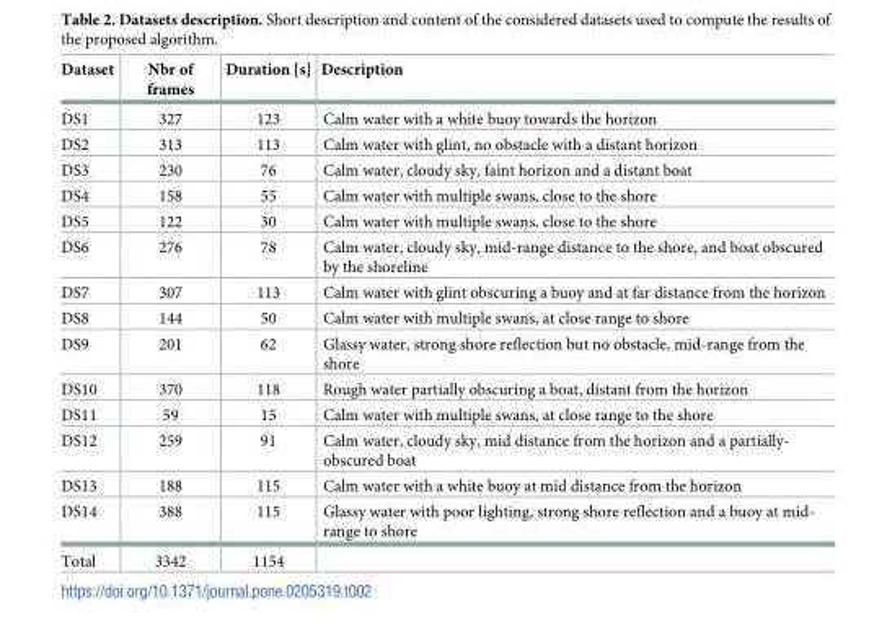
<table><thead><tr><td>Dataset</td><td>Nbr of frames</td><td>Duration [s]</td><td>Description</td></tr></thead><tbody><tr><td>DS1</td><td>327</td><td>123</td><td>Calm water with a white buoy towards the horizon</td></tr><tr><td>DS2</td><td>313</td><td>113</td><td>Calm water with glint, no obstacle with a distant horizon</td></tr><tr><td>DS3</td><td>230</td><td>76</td><td>Calm water, cloudy sky, faint horizon and a distant boat</td></tr><tr><td>DS4</td><td>158</td><td>55</td><td>Calm water with multiple swans, close to the shore</td></tr><tr><td>DS5</td><td>122</td><td>30</td><td>Calm water with multiple swans, close to the shore</td></tr><tr><td>DS6</td><td>276</td><td>78</td><td>Calm water, cloudy sky, mid-range distance to the shore, and boat obscured by the shoreline</td></tr><tr><td>DS7</td><td>307</td><td>113</td><td>Calm water with glint obscuring a buoy and at far distance from the horizon</td></tr><tr><td>DS8</td><td>144</td><td>50</td><td>Calm water with multiple swans, at close range to shore</td></tr><tr><td>DS9</td><td>201</td><td>62</td><td>Glassy water, strong shore reflection but no obstacle, mid-range from the shore</td></tr><tr><td>DS10</td><td>370</td><td>118</td><td>Rough water partially obscuring a boat, distant from the horizon</td></tr><tr><td>DS11</td><td>59</td><td>15</td><td>Calm water with multiple swans, at close range to the shore</td></tr><tr><td>DS12</td><td>259</td><td>91</td><td>Calm water, cloudy sky, mid distance from the horizon and a partially- obscured boat</td></tr><tr><td>DS13</td><td>188</td><td>115</td><td>Calm water with a white buoy at mid distance from the horizon</td></tr><tr><td>DS14</td><td>388</td><td>115</td><td>Glassy water with poor lighting, strong shore reflection and a buoy at mid- range to shore</td></tr><tr><td>Total</td><td>3342</td><td>1154</td><td></td></tr></tbody></table>